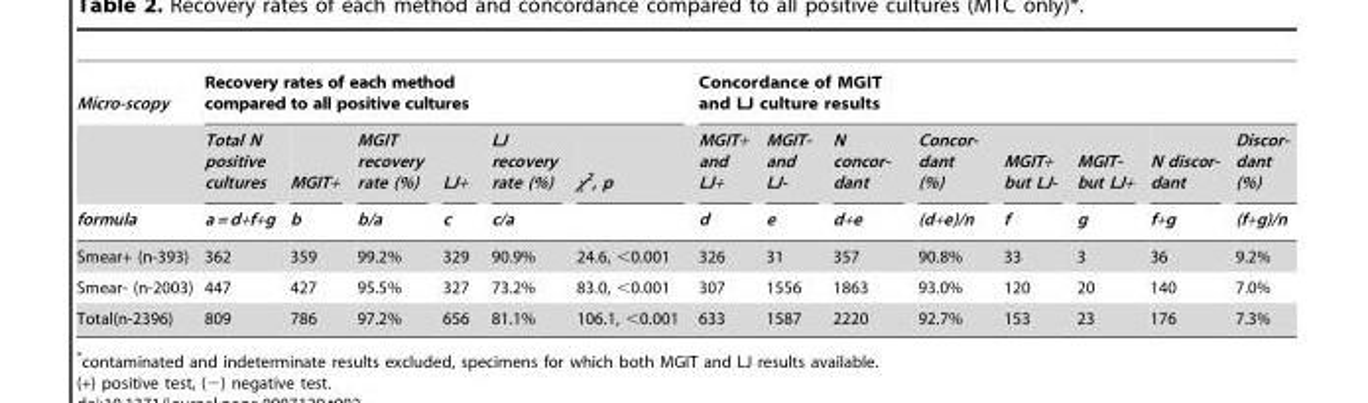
<table><thead><tr><td rowspan="3">Micro-scopy formula</td><td colspan="6">Recovery rates of each method compared to all positive cultures</td><td colspan="8">Concordance of MGIT and LJ culture results</td></tr><tr><td rowspan="2">Total N positive cultures a = d+f+g</td><td rowspan="2">MGIT+ b</td><td rowspan="2">MGIT recovery rate (%) b/a</td><td rowspan="2">LJ+ c</td><td rowspan="2">LJ recovery rate (%) c/a</td><td rowspan="2">χ<sup>2</sup>, p</td><td rowspan="2">MGIT+ and LJ+ d</td><td rowspan="2">MGIT- and LJ- e</td><td rowspan="2">N concor- dant d+e</td><td rowspan="2">Concor- dant (%) (d+e)/n</td><td rowspan="2">MGIT+ but LJ- f</td><td rowspan="2">MGIT- but LJ+ g</td><td rowspan="2">N discor- dant f+g</td><td rowspan="2">Discor- dant (%) (f+g)/n</td></tr><tr></tr></thead><tbody><tr><td>Smear+ (n-393)</td><td>362</td><td>359</td><td>99.2%</td><td>329</td><td>90.9%</td><td>24.6, &lt;0.001</td><td>326</td><td>31</td><td>357</td><td>90.8%</td><td>33</td><td>3</td><td>36</td><td>9.2%</td></tr><tr><td>Smear- (n-2003)</td><td>447</td><td>427</td><td>95.5%</td><td>327</td><td>73.2%</td><td>83.0, &lt;0.001</td><td>307</td><td>1556</td><td>1863</td><td>93.0%</td><td>120</td><td>20</td><td>140</td><td>7.0%</td></tr><tr><td>Total(n-2396)</td><td>809</td><td>786</td><td>97.2%</td><td>656</td><td>81.1%</td><td>106.1, &lt;0.001</td><td>633</td><td>1587</td><td>2220</td><td>92.7%</td><td>153</td><td>23</td><td>176</td><td>7.3%</td></tr></tbody></table>